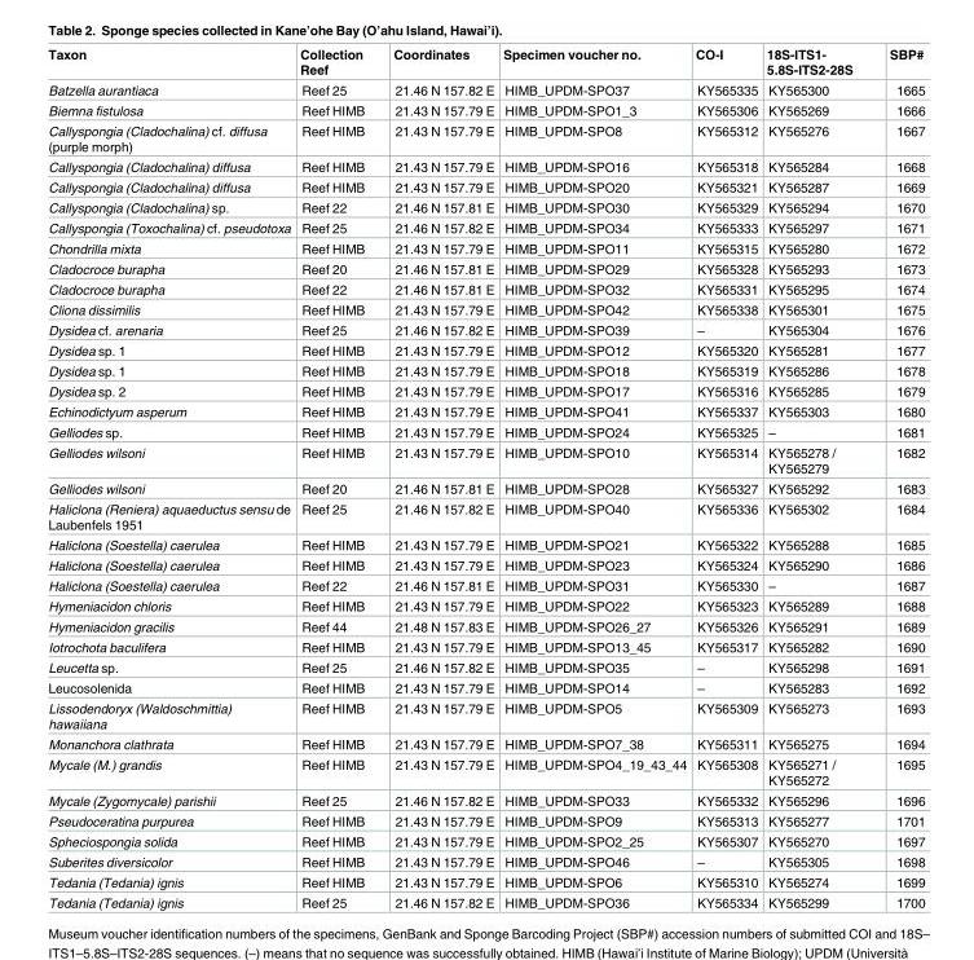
<table><thead><tr><td>Taxon</td><td>Collection Reef</td><td>Coordinates</td><td>Specimen voucher no.</td><td>CO-I</td><td>18S-ITS1- 5.8S-ITS2-28S</td><td>SBP#</td></tr></thead><tbody><tr><td>Batzella aurantiaca</td><td>Reef 25</td><td>21.46 N 157.82 E</td><td>HIMB_UPDM-SPO37</td><td>KY565335</td><td>KY565300</td><td>1665</td></tr><tr><td>Biemna fistulosa</td><td>Reef HIMB</td><td>21.43 N 157.79 E</td><td>HIMB_UPDM-SPO1_3</td><td>KY565306</td><td>KY565269</td><td>1666</td></tr><tr><td>Callyspongia (Cladochalina) cf. diffusa (purple morph)</td><td>Reef HIMB</td><td>21.43 N 157.79 E</td><td>HIMB_UPDM-SPO8</td><td>KY565312</td><td>KY565276</td><td>1667</td></tr><tr><td>Callyspongia (Cladochalina) diffusa</td><td>Reef HIMB</td><td>21.43 N 157.79 E</td><td>HIMB_UPDM-SPO16</td><td>KY565318</td><td>KY565284</td><td>1668</td></tr><tr><td>Callyspongia (Cladochalina) diffusa</td><td>Reef HIMB</td><td>21.43 N 157.79 E</td><td>HIMB_UPDM-SPO20</td><td>KY565321</td><td>KY565287</td><td>1669</td></tr><tr><td>Callyspongia (Cladochalina) sp.</td><td>Reef 22</td><td>21.46 N 157.81 E</td><td>HIMB_UPDM-SPO30</td><td>KY565329</td><td>KY565294</td><td>1670</td></tr><tr><td>Callyspongia (Toxochalina) cf. pseudotoxa</td><td>Reef 25</td><td>21.46 N 157.82 E</td><td>HIMB_UPDM-SPO34</td><td>KY565333</td><td>KY565297</td><td>1671</td></tr><tr><td>Chondrilla mixta</td><td>Reef HIMB</td><td>21.43 N 157.79 E</td><td>HIMB_UPDM-SPO11</td><td>KY565315</td><td>KY565280</td><td>1672</td></tr><tr><td>Cladocroce burapha</td><td>Reef 20</td><td>21.46 N 157.81 E</td><td>HIMB_UPDM-SPO29</td><td>KY565328</td><td>KY565293</td><td>1673</td></tr><tr><td>Cladocroce burapha</td><td>Reef 22</td><td>21.46 N 157.81 E</td><td>HIMB_UPDM-SPO32</td><td>KY565331</td><td>KY565295</td><td>1674</td></tr><tr><td>Cliona dissimilis</td><td>Reef HIMB</td><td>21.43 N 157.79 E</td><td>HIMB_UPDM-SPO42</td><td>KY565338</td><td>KY565301</td><td>1675</td></tr><tr><td>Dysidea cf. arenaria</td><td>Reef 25</td><td>21.46 N 157.82 E</td><td>HIMB_UPDM-SPO39</td><td>–</td><td>KY565304</td><td>1676</td></tr><tr><td>Dysidea sp. 1</td><td>Reef HIMB</td><td>21.43 N 157.79 E</td><td>HIMB_UPDM-SPO12</td><td>KY565320</td><td>KY565281</td><td>1677</td></tr><tr><td>Dysidea sp. 1</td><td>Reef HIMB</td><td>21.43 N 157.79 E</td><td>HIMB_UPDM-SPO18</td><td>KY565319</td><td>KY565286</td><td>1678</td></tr><tr><td>Dysidea sp. 2</td><td>Reef HIMB</td><td>21.43 N 157.79 E</td><td>HIMB_UPDM-SPO17</td><td>KY565316</td><td>KY565285</td><td>1679</td></tr><tr><td>Echinodictyum asperum</td><td>Reef HIMB</td><td>21.43 N 157.79 E</td><td>HIMB_UPDM-SPO41</td><td>KY565337</td><td>KY565303</td><td>1680</td></tr><tr><td>Gelliodes sp.</td><td>Reef HIMB</td><td>21.43 N 157.79 E</td><td>HIMB_UPDM-SPO24</td><td>KY565325</td><td>–</td><td>1681</td></tr><tr><td>Gelliodes wilsoni</td><td>Reef HIMB</td><td>21.43 N 157.79 E</td><td>HIMB_UPDM-SPO10</td><td>KY565314</td><td>KY565278 / KY565279</td><td>1682</td></tr><tr><td>Gelliodes wilsoni</td><td>Reef 20</td><td>21.46 N 157.81 E</td><td>HIMB_UPDM-SPO28</td><td>KY565327</td><td>KY565292</td><td>1683</td></tr><tr><td>Haliclona (Reniera) aquaeductus sensu de Laubenfels 1951</td><td>Reef 25</td><td>21.46 N 157.82 E</td><td>HIMB_UPDM-SPO40</td><td>KY565336</td><td>KY565302</td><td>1684</td></tr><tr><td>Haliclona (Soestella) caerulea</td><td>Reef HIMB</td><td>21.43 N 157.79 E</td><td>HIMB_UPDM-SPO21</td><td>KY565322</td><td>KY565288</td><td>1685</td></tr><tr><td>Haliclona (Soestella) caerulea</td><td>Reef HIMB</td><td>21.43 N 157.79 E</td><td>HIMB_UPDM-SPO23</td><td>KY565324</td><td>KY565290</td><td>1686</td></tr><tr><td>Haliclona (Soestella) caerulea</td><td>Reef 22</td><td>21.46 N 157.81 E</td><td>HIMB_UPDM-SPO31</td><td>KY565330</td><td>–</td><td>1687</td></tr><tr><td>Hymeniacidon chloris</td><td>Reef HIMB</td><td>21.43 N 157.79 E</td><td>HIMB_UPDM-SPO22</td><td>KY565323</td><td>KY565289</td><td>1688</td></tr><tr><td>Hymeniacidon gracilis</td><td>Reef 44</td><td>21.48 N 157.83 E</td><td>HIMB_UPDM-SPO26_27</td><td>KY565326</td><td>KY565291</td><td>1689</td></tr><tr><td>Iotrochota baculifera</td><td>Reef HIMB</td><td>21.43 N 157.79 E</td><td>HIMB_UPDM-SPO13_45</td><td>KY565317</td><td>KY565282</td><td>1690</td></tr><tr><td>Leucetta sp.</td><td>Reef 25</td><td>21.46 N 157.82 E</td><td>HIMB_UPDM-SPO35</td><td>–</td><td>KY565298</td><td>1691</td></tr><tr><td>Leucosolenida</td><td>Reef HIMB</td><td>21.43 N 157.79 E</td><td>HIMB_UPDM-SPO14</td><td>–</td><td>KY565283</td><td>1692</td></tr><tr><td>Lissodendoryx (Waldoschmittia) hawaiiana</td><td>Reef HIMB</td><td>21.43 N 157.79 E</td><td>HIMB_UPDM-SPO5</td><td>KY565309</td><td>KY565273</td><td>1693</td></tr><tr><td>Monanchora clathrata</td><td>Reef HIMB</td><td>21.43 N 157.79 E</td><td>HIMB_UPDM-SPO7_38</td><td>KY565311</td><td>KY565275</td><td>1694</td></tr><tr><td>Mycale (M.) grandis</td><td>Reef HIMB</td><td>21.43 N 157.79 E</td><td>HIMB_UPDM-SPO4_19_43_44</td><td>KY565308</td><td>KY565271 / KY565272</td><td>1695</td></tr><tr><td>Mycale (Zygomycale) parishii</td><td>Reef 25</td><td>21.46 N 157.82 E</td><td>HIMB_UPDM-SPO33</td><td>KY565332</td><td>KY565296</td><td>1696</td></tr><tr><td>Pseudoceratina purpurea</td><td>Reef HIMB</td><td>21.43 N 157.79 E</td><td>HIMB_UPDM-SPO9</td><td>KY565313</td><td>KY565277</td><td>1701</td></tr><tr><td>Spheciospongia solida</td><td>Reef HIMB</td><td>21.43 N 157.79 E</td><td>HIMB_UPDM-SPO2_25</td><td>KY565307</td><td>KY565270</td><td>1697</td></tr><tr><td>Suberites diversicolor</td><td>Reef HIMB</td><td>21.43 N 157.79 E</td><td>HIMB_UPDM-SPO46</td><td>–</td><td>KY565305</td><td>1698</td></tr><tr><td>Tedania (Tedania) ignis</td><td>Reef HIMB</td><td>21.43 N 157.79 E</td><td>HIMB_UPDM-SPO6</td><td>KY565310</td><td>KY565274</td><td>1699</td></tr><tr><td>Tedania (Tedania) ignis</td><td>Reef 25</td><td>21.46 N 157.82 E</td><td>HIMB_UPDM-SPO36</td><td>KY565334</td><td>KY565299</td><td>1700</td></tr></tbody></table>